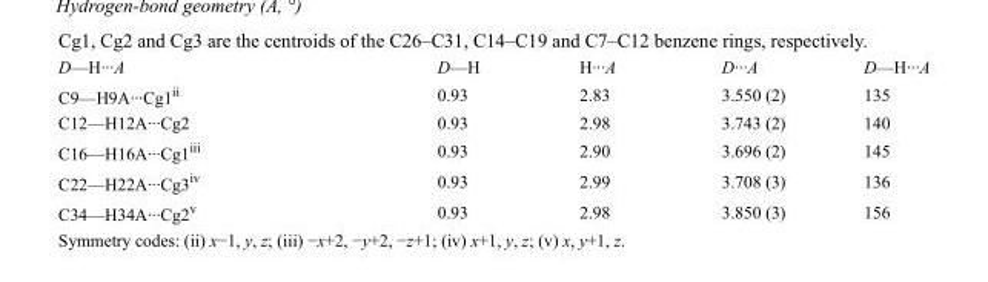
<table><tbody><tr><td>D—H···A</td><td>D—H</td><td>H···A</td><td>D···A</td><td>D—H···A</td></tr><tr><td>C9—H9A···Cg1<sup>ii</sup></td><td>0.93</td><td>2.83</td><td>3.550 (2)</td><td>135</td></tr><tr><td>C12—H12A···Cg2</td><td>0.93</td><td>2.98</td><td>3.743 (2)</td><td>140</td></tr><tr><td>C16—H16A···Cg1<sup>iii</sup></td><td>0.93</td><td>2.90</td><td>3.696 (2)</td><td>145</td></tr><tr><td>C22—H22A···Cg3<sup>iv</sup></td><td>0.93</td><td>2.99</td><td>3.708 (3)</td><td>136</td></tr><tr><td>C34—H34A···Cg2<sup>v</sup></td><td>0.93</td><td>2.98</td><td>3.850 (3)</td><td>156</td></tr></tbody></table>